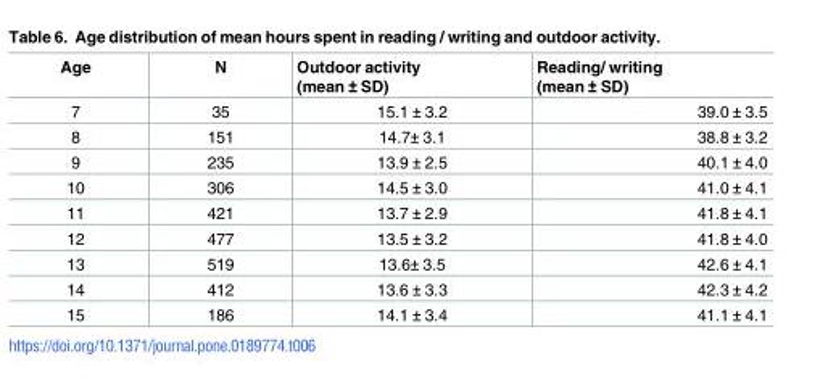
<table><thead><tr><td>Age</td><td>N</td><td>Outdoor activity (mean ± SD)</td><td>Reading/ writing (mean ± SD)</td></tr></thead><tbody><tr><td>7</td><td>35</td><td>15.1 ± 3.2</td><td>39.0 ± 3.5</td></tr><tr><td>8</td><td>151</td><td>14.7± 3.1</td><td>38.8 ± 3.2</td></tr><tr><td>9</td><td>235</td><td>13.9 ± 2.5</td><td>40.1 ± 4.0</td></tr><tr><td>10</td><td>306</td><td>14.5 ± 3.0</td><td>41.0 ± 4.1</td></tr><tr><td>11</td><td>421</td><td>13.7 ± 2.9</td><td>41.8 ± 4.1</td></tr><tr><td>12</td><td>477</td><td>13.5 ± 3.2</td><td>41.8 ± 4.0</td></tr><tr><td>13</td><td>519</td><td>13.6± 3.5</td><td>42.6 ± 4.1</td></tr><tr><td>14</td><td>412</td><td>13.6 ± 3.3</td><td>42.3 ± 4.2</td></tr><tr><td>15</td><td>186</td><td>14.1 ± 3.4</td><td>41.1 ± 4.1</td></tr></tbody></table>